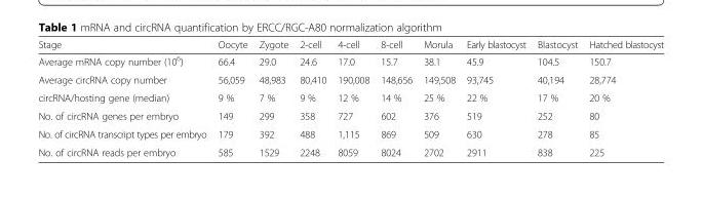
<table><thead><tr><td>Stage</td><td>Oocyte</td><td>Zygote</td><td>2-cell</td><td>4-cell</td><td>8-cell</td><td>Morula</td><td>Early blastocyst</td><td>Blastocyst</td><td>Hatched blastocyst</td></tr></thead><tbody><tr><td>Average mRNA copy number (10<sup>6</sup>)</td><td>66.4</td><td>29.0</td><td>24.6</td><td>17.0</td><td>15.7</td><td>38.1</td><td>45.9</td><td>104.5</td><td>150.7</td></tr><tr><td>Average circRNA copy number</td><td>56,059</td><td>48,983</td><td>80,410</td><td>190,008</td><td>148,656</td><td>149,508</td><td>93,745</td><td>40,194</td><td>28,774</td></tr><tr><td>circRNA/hosting gene (median)</td><td>9 %</td><td>7 %</td><td>9 %</td><td>12 %</td><td>14 %</td><td>25 %</td><td>22 %</td><td>17 %</td><td>20 %</td></tr><tr><td>No. of circRNA genes per embryo</td><td>149</td><td>299</td><td>358</td><td>727</td><td>602</td><td>376</td><td>519</td><td>252</td><td>80</td></tr><tr><td>No. of circRNA transcript types per embryo</td><td>179</td><td>392</td><td>488</td><td>1,115</td><td>869</td><td>509</td><td>630</td><td>278</td><td>85</td></tr><tr><td>No. of circRNA reads per embryo</td><td>585</td><td>1529</td><td>2248</td><td>8059</td><td>8024</td><td>2702</td><td>2911</td><td>838</td><td>225</td></tr></tbody></table>